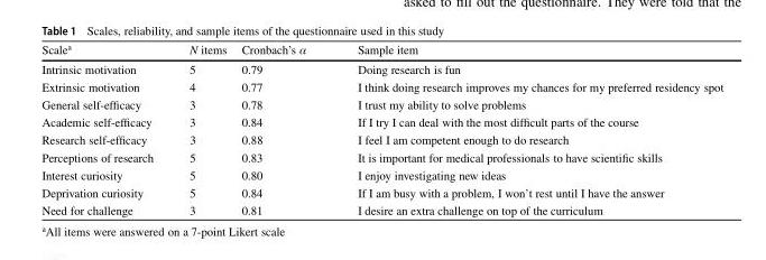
<table><thead><tr><td>Scale<sup>a</sup></td><td>N items</td><td>Cronbach’s α</td><td>Sample item</td></tr></thead><tbody><tr><td>Intrinsic motivation</td><td>5</td><td>0.79</td><td>Doing research is fun</td></tr><tr><td>Extrinsic motivation</td><td>4</td><td>0.77</td><td>I think doing research improves my chances for my preferred residency spot</td></tr><tr><td>General self-efficacy</td><td>3</td><td>0.78</td><td>I trust my ability to solve problems</td></tr><tr><td>Academic self-efficacy</td><td>3</td><td>0.84</td><td>If I try I can deal with the most difficult parts of the course</td></tr><tr><td>Research self-efficacy</td><td>3</td><td>0.88</td><td>I feel I am competent enough to do research</td></tr><tr><td>Perceptions of research</td><td>5</td><td>0.83</td><td>It is important for medical professionals to have scientific skills</td></tr><tr><td>Interest curiosity</td><td>5</td><td>0.80</td><td>I enjoy investigating new ideas</td></tr><tr><td>Deprivation curiosity</td><td>5</td><td>0.84</td><td>If I am busy with a problem, I won’t rest until I have the answer</td></tr><tr><td>Need for challenge</td><td>3</td><td>0.81</td><td>I desire an extra challenge on top of the curriculum</td></tr></tbody></table>